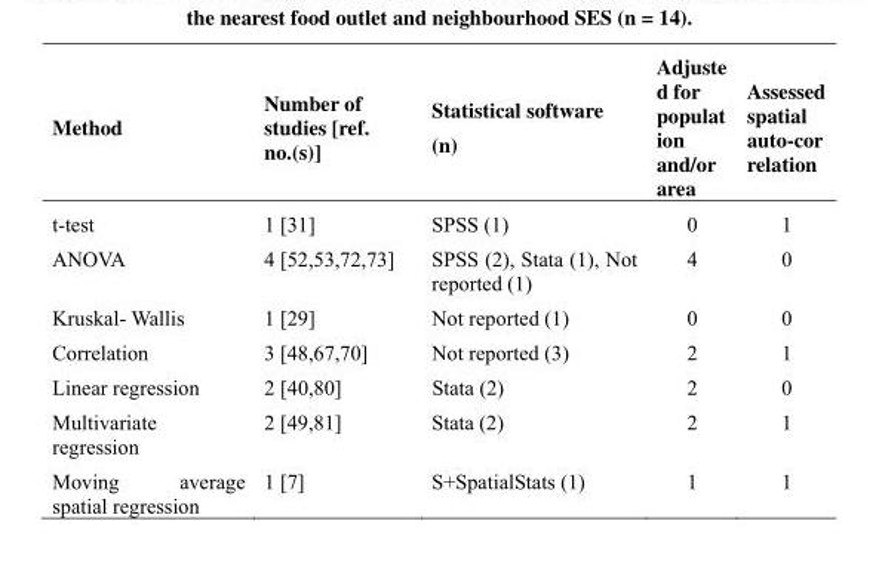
<table><thead><tr><td>Method</td><td>Number of studies [ref. no.(s)]</td><td>Statistical software (n)</td><td>Adjuste d for populat ion and/or area</td><td>Assessed spatial auto-cor relation</td></tr></thead><tbody><tr><td>t-test</td><td>1 [31]</td><td>SPSS (1)</td><td>0</td><td>1</td></tr><tr><td>ANOVA</td><td>4 [52,53,72,73]</td><td>SPSS (2), Stata (1), Not reported (1)</td><td>4</td><td>0</td></tr><tr><td>Kruskal- Wallis</td><td>1 [29]</td><td>Not reported (1)</td><td>0</td><td>0</td></tr><tr><td>Correlation</td><td>3 [48,67,70]</td><td>Not reported (3)</td><td>2</td><td>1</td></tr><tr><td>Linear regression</td><td>2 [40,80]</td><td>Stata (2)</td><td>2</td><td>0</td></tr><tr><td>Multivariate regression</td><td>2 [49,81]</td><td>Stata (2)</td><td>2</td><td>1</td></tr><tr><td>Moving average spatial regression</td><td>1 [7]</td><td>S+SpatialStats (1)</td><td>1</td><td>1</td></tr></tbody></table>